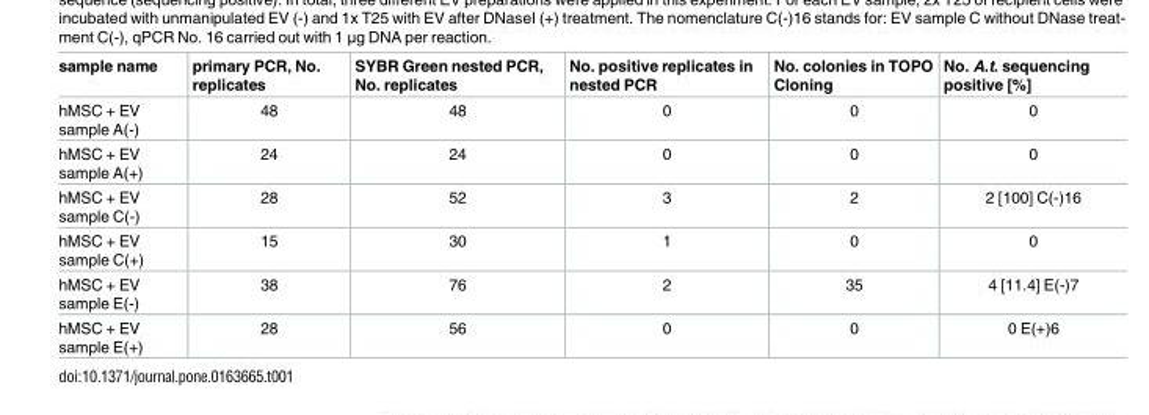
<table><thead><tr><td>sample name</td><td>primary PCR, No. replicates</td><td>SYBR Green nested PCR, No. replicates</td><td>No. positive replicates in nested PCR</td><td>No. colonies in TOPO Cloning</td><td>No. A.t. sequencing positive [%]</td></tr></thead><tbody><tr><td>hMSC + EV sample A(-)</td><td>48</td><td>48</td><td>0</td><td>0</td><td>0</td></tr><tr><td>hMSC + EV sample A(+)</td><td>24</td><td>24</td><td>0</td><td>0</td><td>0</td></tr><tr><td>hMSC + EV sample C(-)</td><td>28</td><td>52</td><td>3</td><td>2</td><td>2 [100] C(-)16</td></tr><tr><td>hMSC + EV sample C(+)</td><td>15</td><td>30</td><td>1</td><td>0</td><td>0</td></tr><tr><td>hMSC + EV sample E(-)</td><td>38</td><td>76</td><td>2</td><td>35</td><td>4 [11.4] E(-)7</td></tr><tr><td>hMSC + EV sample E(+)</td><td>28</td><td>56</td><td>0</td><td>0</td><td>0 E(+)6</td></tr></tbody></table>